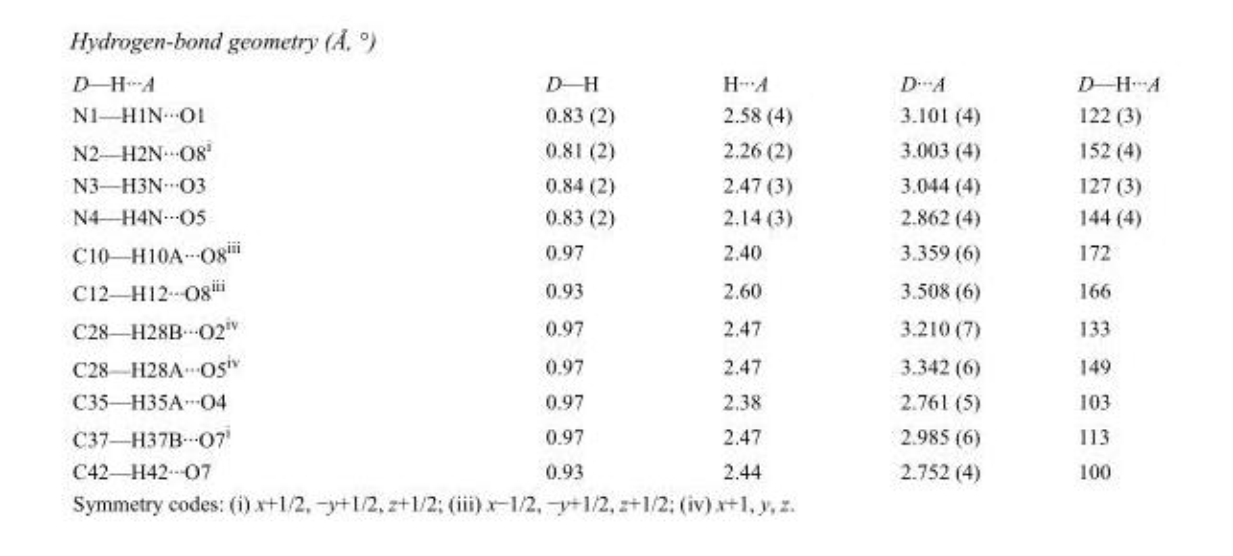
<table><tbody><tr><td>D—H···A</td><td>D—H</td><td>H···A</td><td>D···A</td><td>D—H···A</td></tr><tr><td>N1—H1N···O1</td><td>0.83 (2)</td><td>2.58 (4)</td><td>3.101 (4)</td><td>122 (3)</td></tr><tr><td>N2—H2N···O8<sup>i</sup></td><td>0.81 (2)</td><td>2.26 (2)</td><td>3.003 (4)</td><td>152 (4)</td></tr><tr><td>N3—H3N···O3</td><td>0.84 (2)</td><td>2.47 (3)</td><td>3.044 (4)</td><td>127 (3)</td></tr><tr><td>N4—H4N···O5</td><td>0.83 (2)</td><td>2.14 (3)</td><td>2.862 (4)</td><td>144 (4)</td></tr><tr><td>C10—H10A···O8<sup>iii</sup></td><td>0.97</td><td>2.40</td><td>3.359 (6)</td><td>172</td></tr><tr><td>C12—H12···O8<sup>iii</sup></td><td>0.93</td><td>2.60</td><td>3.508 (6)</td><td>166</td></tr><tr><td>C28—H28B···O2<sup>iv</sup></td><td>0.97</td><td>2.47</td><td>3.210 (7)</td><td>133</td></tr><tr><td>C28—H28A···O5<sup>iv</sup></td><td>0.97</td><td>2.47</td><td>3.342 (6)</td><td>149</td></tr><tr><td>C35—H35A···O4</td><td>0.97</td><td>2.38</td><td>2.761 (5)</td><td>103</td></tr><tr><td>C37—H37B···O7<sup>i</sup></td><td>0.97</td><td>2.47</td><td>2.985 (6)</td><td>113</td></tr><tr><td>C42—H42···O7</td><td>0.93</td><td>2.44</td><td>2.752 (4)</td><td>100</td></tr></tbody></table>